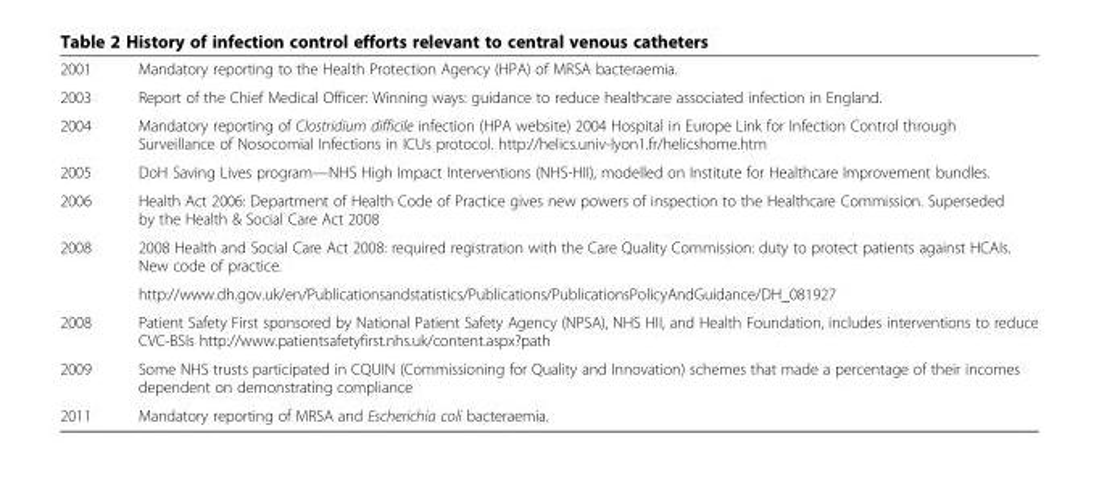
<table><tbody><tr><td>2001</td><td>Mandatory reporting to the Health Protection Agency (HPA) of MRSA bacteraemia.</td></tr><tr><td>2003</td><td>Report of the Chief Medical Officer: Winning ways: guidance to reduce healthcare associated infection in England.</td></tr><tr><td>2004</td><td>Mandatory reporting of Clostridium difficile infection (HPA website) 2004 Hospital in Europe Link for Infection Control through Surveillance of Nosocomial Infections in ICUs protocol. http://helics.univ-lyon1.fr/helicshome.htm</td></tr><tr><td>2005</td><td>DoH Saving Lives program—NHS High Impact Interventions (NHS-HII), modelled on Institute for Healthcare Improvement bundles.</td></tr><tr><td>2006</td><td>Health Act 2006: Department of Health Code of Practice gives new powers of inspection to the Healthcare Commission. Superseded by the Health &amp; Social Care Act 2008</td></tr><tr><td rowspan="2">2008</td><td>2008 Health and Social Care Act 2008: required registration with the Care Quality Commission: duty to protect patients against HCAIs. New code of practice.</td></tr><tr><td>http://www.dh.gov.uk/en/Publicationsandstatistics/Publications/PublicationsPolicyAndGuidance/DH_081927</td></tr><tr><td>2008</td><td>Patient Safety First sponsored by National Patient Safety Agency (NPSA), NHS HII, and Health Foundation, includes interventions to reduce CVC-BSIs http://www.patientsafetyfirst.nhs.uk/content.aspx?path</td></tr><tr><td>2009</td><td>Some NHS trusts participated in CQUIN (Commissioning for Quality and Innovation) schemes that made a percentage of their incomes dependent on demonstrating compliance</td></tr><tr><td>2011</td><td>Mandatory reporting of MRSA and Escherichia coli bacteraemia.</td></tr></tbody></table>